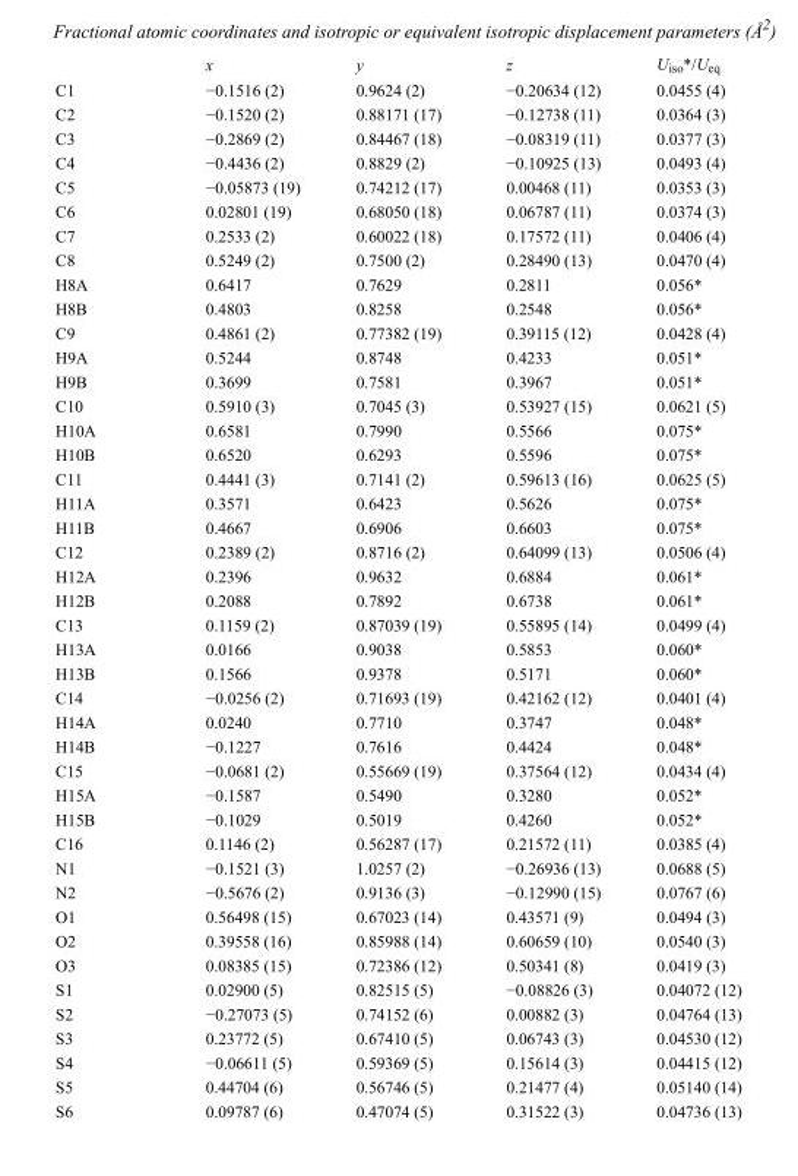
<table><thead><tr><td></td><td>x</td><td>y</td><td>z</td><td>U<sub>iso</sub>*/U<sub>eq</sub></td></tr></thead><tbody><tr><td>C1</td><td>−0.1516 (2)</td><td>0.9624 (2)</td><td>−0.20634 (12)</td><td>0.0455 (4)</td></tr><tr><td>C2</td><td>−0.1520 (2)</td><td>0.88171 (17)</td><td>−0.12738 (11)</td><td>0.0364 (3)</td></tr><tr><td>C3</td><td>−0.2869 (2)</td><td>0.84467 (18)</td><td>−0.08319 (11)</td><td>0.0377 (3)</td></tr><tr><td>C4</td><td>−0.4436 (2)</td><td>0.8829 (2)</td><td>−0.10925 (13)</td><td>0.0493 (4)</td></tr><tr><td>C5</td><td>−0.05873 (19)</td><td>0.74212 (17)</td><td>0.00468 (11)</td><td>0.0353 (3)</td></tr><tr><td>C6</td><td>0.02801 (19)</td><td>0.68050 (18)</td><td>0.06787 (11)</td><td>0.0374 (3)</td></tr><tr><td>C7</td><td>0.2533 (2)</td><td>0.60022 (18)</td><td>0.17572 (11)</td><td>0.0406 (4)</td></tr><tr><td>C8</td><td>0.5249 (2)</td><td>0.7500 (2)</td><td>0.28490 (13)</td><td>0.0470 (4)</td></tr><tr><td>H8A</td><td>0.6417</td><td>0.7629</td><td>0.2811</td><td>0.056*</td></tr><tr><td>H8B</td><td>0.4803</td><td>0.8258</td><td>0.2548</td><td>0.056*</td></tr><tr><td>C9</td><td>0.4861 (2)</td><td>0.77382 (19)</td><td>0.39115 (12)</td><td>0.0428 (4)</td></tr><tr><td>H9A</td><td>0.5244</td><td>0.8748</td><td>0.4233</td><td>0.051*</td></tr><tr><td>H9B</td><td>0.3699</td><td>0.7581</td><td>0.3967</td><td>0.051*</td></tr><tr><td>C10</td><td>0.5910 (3)</td><td>0.7045 (3)</td><td>0.53927 (15)</td><td>0.0621 (5)</td></tr><tr><td>H10A</td><td>0.6581</td><td>0.7990</td><td>0.5566</td><td>0.075*</td></tr><tr><td>H10B</td><td>0.6520</td><td>0.6293</td><td>0.5596</td><td>0.075*</td></tr><tr><td>C11</td><td>0.4441 (3)</td><td>0.7141 (2)</td><td>0.59613 (16)</td><td>0.0625 (5)</td></tr><tr><td>H11A</td><td>0.3571</td><td>0.6423</td><td>0.5626</td><td>0.075*</td></tr><tr><td>H11B</td><td>0.4667</td><td>0.6906</td><td>0.6603</td><td>0.075*</td></tr><tr><td>C12</td><td>0.2389 (2)</td><td>0.8716 (2)</td><td>0.64099 (13)</td><td>0.0506 (4)</td></tr><tr><td>H12A</td><td>0.2396</td><td>0.9632</td><td>0.6884</td><td>0.061*</td></tr><tr><td>H12B</td><td>0.2088</td><td>0.7892</td><td>0.6738</td><td>0.061*</td></tr><tr><td>C13</td><td>0.1159 (2)</td><td>0.87039 (19)</td><td>0.55895 (14)</td><td>0.0499 (4)</td></tr><tr><td>H13A</td><td>0.0166</td><td>0.9038</td><td>0.5853</td><td>0.060*</td></tr><tr><td>H13B</td><td>0.1566</td><td>0.9378</td><td>0.5171</td><td>0.060*</td></tr><tr><td>C14</td><td>−0.0256 (2)</td><td>0.71693 (19)</td><td>0.42162 (12)</td><td>0.0401 (4)</td></tr><tr><td>H14A</td><td>0.0240</td><td>0.7710</td><td>0.3747</td><td>0.048*</td></tr><tr><td>H14B</td><td>−0.1227</td><td>0.7616</td><td>0.4424</td><td>0.048*</td></tr><tr><td>C15</td><td>−0.0681 (2)</td><td>0.55669 (19)</td><td>0.37564 (12)</td><td>0.0434 (4)</td></tr><tr><td>H15A</td><td>−0.1587</td><td>0.5490</td><td>0.3280</td><td>0.052*</td></tr><tr><td>H15B</td><td>−0.1029</td><td>0.5019</td><td>0.4260</td><td>0.052*</td></tr><tr><td>C16</td><td>0.1146 (2)</td><td>0.56287 (17)</td><td>0.21572 (11)</td><td>0.0385 (4)</td></tr><tr><td>N1</td><td>−0.1521 (3)</td><td>1.0257 (2)</td><td>−0.26936 (13)</td><td>0.0688 (5)</td></tr><tr><td>N2</td><td>−0.5676 (2)</td><td>0.9136 (3)</td><td>−0.12990 (15)</td><td>0.0767 (6)</td></tr><tr><td>O1</td><td>0.56498 (15)</td><td>0.67023 (14)</td><td>0.43571 (9)</td><td>0.0494 (3)</td></tr><tr><td>O2</td><td>0.39558 (16)</td><td>0.85988 (14)</td><td>0.60659 (10)</td><td>0.0540 (3)</td></tr><tr><td>O3</td><td>0.08385 (15)</td><td>0.72386 (12)</td><td>0.50341 (8)</td><td>0.0419 (3)</td></tr><tr><td>S1</td><td>0.02900 (5)</td><td>0.82515 (5)</td><td>−0.08826 (3)</td><td>0.04072 (12)</td></tr><tr><td>S2</td><td>−0.27073 (5)</td><td>0.74152 (6)</td><td>0.00882 (3)</td><td>0.04764 (13)</td></tr><tr><td>S3</td><td>0.23772 (5)</td><td>0.67410 (5)</td><td>0.06743 (3)</td><td>0.04530 (12)</td></tr><tr><td>S4</td><td>−0.06611 (5)</td><td>0.59369 (5)</td><td>0.15614 (3)</td><td>0.04415 (12)</td></tr><tr><td>S5</td><td>0.44704 (6)</td><td>0.56746 (5)</td><td>0.21477 (4)</td><td>0.05140 (14)</td></tr><tr><td>S6</td><td>0.09787 (6)</td><td>0.47074 (5)</td><td>0.31522 (3)</td><td>0.04736 (13)</td></tr></tbody></table>